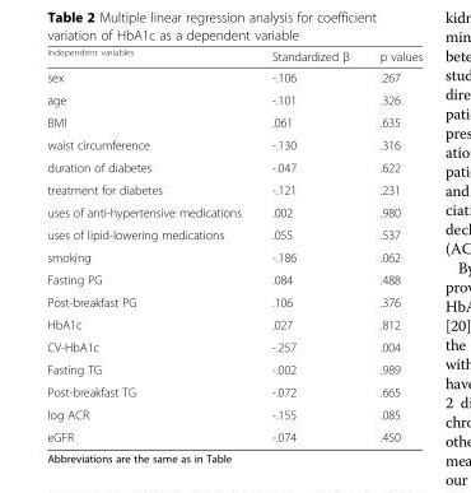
<table><thead><tr><td><sup>Independent variables</sup></td><td>Standardized β</td><td>p values</td></tr></thead><tbody><tr><td>sex</td><td>-.106</td><td>.267</td></tr><tr><td>age</td><td>-.101</td><td>.326</td></tr><tr><td>BMI</td><td>.061</td><td>.635</td></tr><tr><td>waist circumference</td><td>-.130</td><td>.316</td></tr><tr><td>duration of diabetes</td><td>-.047</td><td>.622</td></tr><tr><td>treatment for diabetes</td><td>-.121</td><td>.231</td></tr><tr><td>uses of anti-hypertensive medications</td><td>.002</td><td>.980</td></tr><tr><td>uses of lipid-lowering medications</td><td>.055</td><td>.537</td></tr><tr><td>smoking</td><td>-.186</td><td>.062</td></tr><tr><td>Fasting PG</td><td>.084</td><td>.488</td></tr><tr><td>Post-breakfast PG</td><td>.106</td><td>.376</td></tr><tr><td>HbA1c</td><td>.027</td><td>.812</td></tr><tr><td>CV-HbA1c</td><td>-.257</td><td>.004</td></tr><tr><td>Fasting TG</td><td>-.002</td><td>.989</td></tr><tr><td>Post-breakfast TG</td><td>-.072</td><td>.665</td></tr><tr><td>log ACR</td><td>-.155</td><td>.085</td></tr><tr><td>eGFR</td><td>-.074</td><td>.450</td></tr></tbody></table>